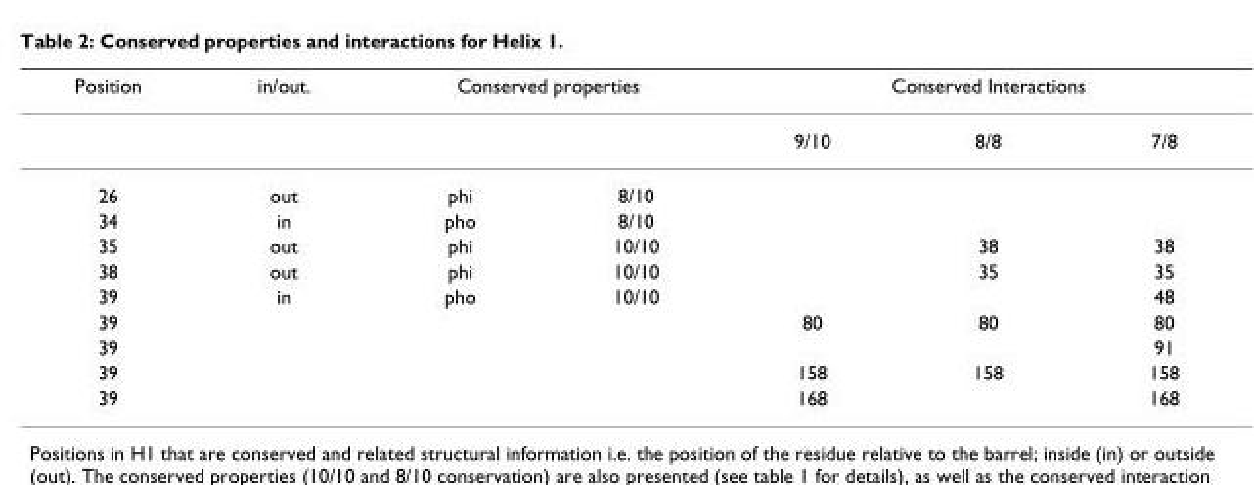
<table><thead><tr><td rowspan="2">Position</td><td rowspan="2">in/out.</td><td colspan="2">Conserved properties</td><td colspan="3">Conserved Interactions</td></tr><tr><td></td><td></td><td>9/10</td><td>8/8</td><td>7/8</td></tr></thead><tbody><tr><td>26</td><td>out</td><td>phi</td><td>8/10</td><td></td><td></td><td></td></tr><tr><td>34</td><td>in</td><td>pho</td><td>8/10</td><td></td><td></td><td></td></tr><tr><td>35</td><td>out</td><td>phi</td><td>10/10</td><td></td><td>38</td><td>38</td></tr><tr><td>38</td><td>out</td><td>phi</td><td>10/10</td><td></td><td>35</td><td>35</td></tr><tr><td>39</td><td>in</td><td>pho</td><td>10/10</td><td></td><td></td><td>48</td></tr><tr><td>39</td><td></td><td></td><td></td><td>80</td><td>80</td><td>80</td></tr><tr><td>39</td><td></td><td></td><td></td><td></td><td></td><td>91</td></tr><tr><td>39</td><td></td><td></td><td></td><td>158</td><td>158</td><td>158</td></tr><tr><td>39</td><td></td><td></td><td></td><td>168</td><td></td><td>168</td></tr></tbody></table>